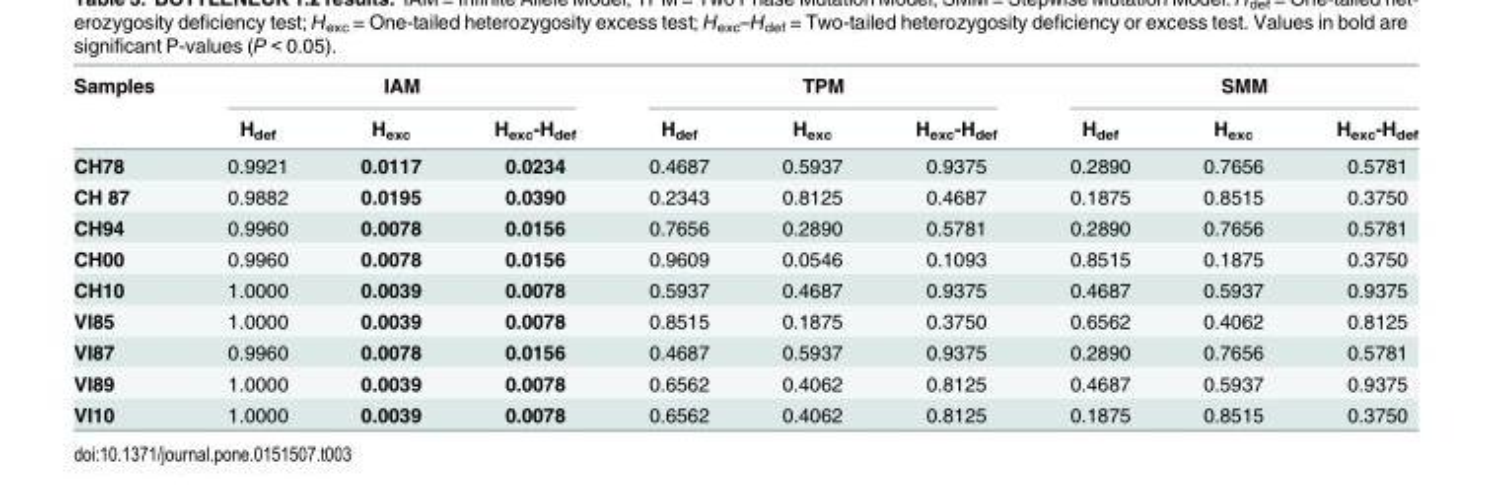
<table><thead><tr><td rowspan="2">Samples</td><td colspan="3">IAM</td><td colspan="3">TPM</td><td colspan="3">SMM</td></tr><tr><td>H<sub>def</sub></td><td>H<sub>exc</sub></td><td>H<sub>exc</sub>-H<sub>def</sub></td><td>H<sub>def</sub></td><td>H<sub>exc</sub></td><td>H<sub>exc</sub>-H<sub>def</sub></td><td>H<sub>def</sub></td><td>H<sub>exc</sub></td><td>H<sub>exc</sub>-H<sub>def</sub></td></tr></thead><tbody><tr><td>CH78</td><td>0.9921</td><td>0.0117</td><td>0.0234</td><td>0.4687</td><td>0.5937</td><td>0.9375</td><td>0.2890</td><td>0.7656</td><td>0.5781</td></tr><tr><td>CH 87</td><td>0.9882</td><td>0.0195</td><td>0.0390</td><td>0.2343</td><td>0.8125</td><td>0.4687</td><td>0.1875</td><td>0.8515</td><td>0.3750</td></tr><tr><td>CH94</td><td>0.9960</td><td>0.0078</td><td>0.0156</td><td>0.7656</td><td>0.2890</td><td>0.5781</td><td>0.2890</td><td>0.7656</td><td>0.5781</td></tr><tr><td>CH00</td><td>0.9960</td><td>0.0078</td><td>0.0156</td><td>0.9609</td><td>0.0546</td><td>0.1093</td><td>0.8515</td><td>0.1875</td><td>0.3750</td></tr><tr><td>CH10</td><td>1.0000</td><td>0.0039</td><td>0.0078</td><td>0.5937</td><td>0.4687</td><td>0.9375</td><td>0.4687</td><td>0.5937</td><td>0.9375</td></tr><tr><td>VI85</td><td>1.0000</td><td>0.0039</td><td>0.0078</td><td>0.8515</td><td>0.1875</td><td>0.3750</td><td>0.6562</td><td>0.4062</td><td>0.8125</td></tr><tr><td>VI87</td><td>0.9960</td><td>0.0078</td><td>0.0156</td><td>0.4687</td><td>0.5937</td><td>0.9375</td><td>0.2890</td><td>0.7656</td><td>0.5781</td></tr><tr><td>VI89</td><td>1.0000</td><td>0.0039</td><td>0.0078</td><td>0.6562</td><td>0.4062</td><td>0.8125</td><td>0.4687</td><td>0.5937</td><td>0.9375</td></tr><tr><td>VI10</td><td>1.0000</td><td>0.0039</td><td>0.0078</td><td>0.6562</td><td>0.4062</td><td>0.8125</td><td>0.1875</td><td>0.8515</td><td>0.3750</td></tr></tbody></table>